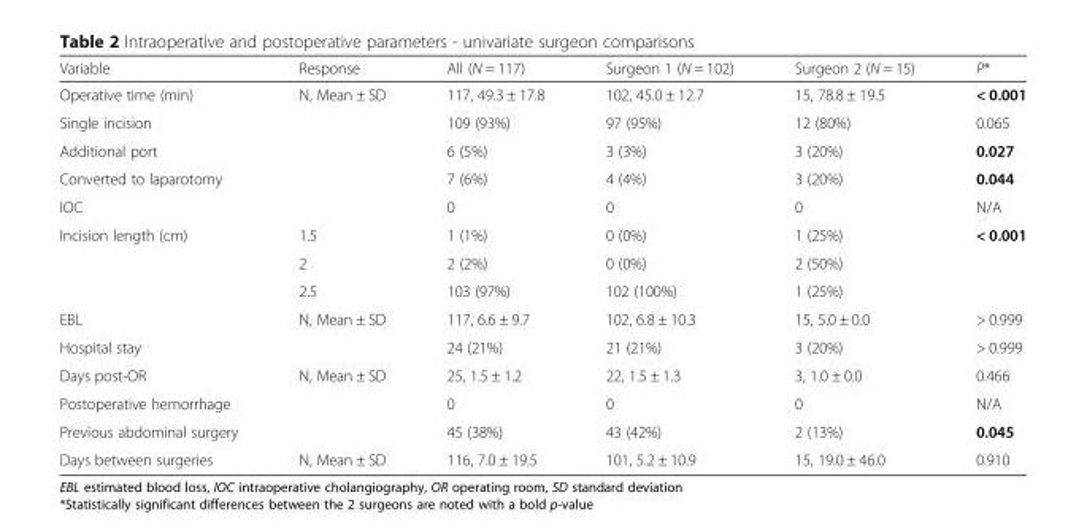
<table><thead><tr><td>Variable</td><td>Response</td><td>All (N = 117)</td><td>Surgeon 1 (N = 102)</td><td>Surgeon 2 (N = 15)</td><td>P*</td></tr></thead><tbody><tr><td>Operative time (min)</td><td>N, Mean ± SD</td><td>117, 49.3 ± 17.8</td><td>102, 45.0 ± 12.7</td><td>15, 78.8 ± 19.5</td><td>&lt; 0.001</td></tr><tr><td>Single incision</td><td></td><td>109 (93%)</td><td>97 (95%)</td><td>12 (80%)</td><td>0.065</td></tr><tr><td>Additional port</td><td></td><td>6 (5%)</td><td>3 (3%)</td><td>3 (20%)</td><td>0.027</td></tr><tr><td>Converted to laparotomy</td><td></td><td>7 (6%)</td><td>4 (4%)</td><td>3 (20%)</td><td>0.044</td></tr><tr><td>IOC</td><td></td><td>0</td><td>0</td><td>0</td><td>N/A</td></tr><tr><td rowspan="3">Incision length (cm)</td><td>1.5</td><td>1 (1%)</td><td>0 (0%)</td><td>1 (25%)</td><td>&lt; 0.001</td></tr><tr><td>2</td><td>2 (2%)</td><td>0 (0%)</td><td>2 (50%)</td><td rowspan="2"></td></tr><tr><td>2.5</td><td>103 (97%)</td><td>102 (100%)</td><td>1 (25%)</td></tr><tr><td>EBL</td><td>N, Mean ± SD</td><td>117, 6.6 ± 9.7</td><td>102, 6.8 ± 10.3</td><td>15, 5.0 ± 0.0</td><td>&gt; 0.999</td></tr><tr><td>Hospital stay</td><td></td><td>24 (21%)</td><td>21 (21%)</td><td>3 (20%)</td><td>&gt; 0.999</td></tr><tr><td>Days post-OR</td><td>N, Mean ± SD</td><td>25, 1.5 ± 1.2</td><td>22, 1.5 ± 1.3</td><td>3, 1.0 ± 0.0</td><td>0.466</td></tr><tr><td>Postoperative hemorrhage</td><td></td><td>0</td><td>0</td><td>0</td><td>N/A</td></tr><tr><td>Previous abdominal surgery</td><td></td><td>45 (38%)</td><td>43 (42%)</td><td>2 (13%)</td><td>0.045</td></tr><tr><td>Days between surgeries</td><td>N, Mean ± SD</td><td>116, 7.0 ± 19.5</td><td>101, 5.2 ± 10.9</td><td>15, 19.0 ± 46.0</td><td>0.910</td></tr></tbody></table>